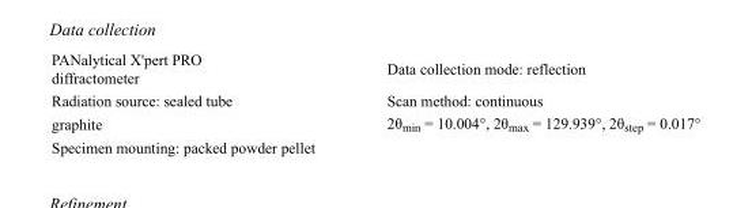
<table><tbody><tr><td>PANalytical X&#x27;pert PRO diffractometer</td><td>Data collection mode: reflection</td></tr><tr><td>Radiation source: sealed tube</td><td>Scan method: continuous</td></tr><tr><td>graphite</td><td>2θ<sub>min</sub> = 10.004°, 2θ<sub>max</sub> = 129.939°, 2θ<sub>step</sub> = 0.017°</td></tr><tr><td>Specimen mounting: packed powder pellet</td><td></td></tr></tbody></table>